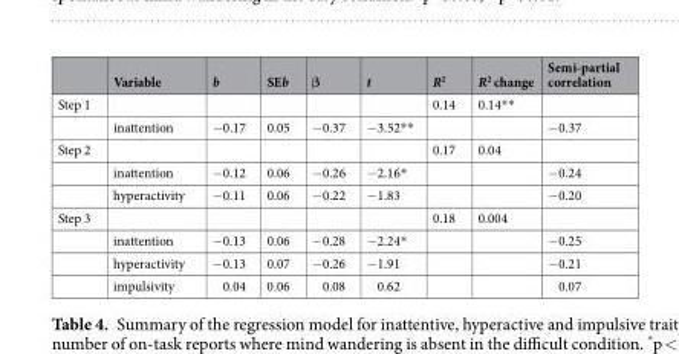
<table><thead><tr><td></td><td>Variable</td><td>b</td><td>SEb</td><td>β</td><td>t</td><td>R<sup>2</sup></td><td>R<sup>2</sup> change</td><td>Semi-partial correlation</td></tr></thead><tbody><tr><td rowspan="2">Step 1</td><td></td><td></td><td></td><td></td><td></td><td>0.14</td><td>0.14**</td><td></td></tr><tr><td>inattention</td><td>−0.17</td><td>0.05</td><td>−0.37</td><td>−3.52**</td><td></td><td></td><td>−0.37</td></tr><tr><td rowspan="3">Step 2</td><td></td><td></td><td></td><td></td><td></td><td>0.17</td><td>0.04</td><td></td></tr><tr><td>inattention</td><td>−0.12</td><td>0.06</td><td>−0.26</td><td>−2.16*</td><td></td><td></td><td>−0.24</td></tr><tr><td>hyperactivity</td><td>−0.11</td><td>0.06</td><td>−0.22</td><td>−1.83</td><td></td><td></td><td>−0.20</td></tr><tr><td rowspan="4">Step 3</td><td></td><td></td><td></td><td></td><td></td><td>0.18</td><td>0.004</td><td></td></tr><tr><td>inattention</td><td>−0.13</td><td>0.06</td><td>−0.28</td><td>−2.24*</td><td></td><td></td><td>−0.25</td></tr><tr><td>hyperactivity</td><td>−0.13</td><td>0.07</td><td>−0.26</td><td>−1.91</td><td></td><td></td><td>−0.21</td></tr><tr><td>impulsivity</td><td>0.04</td><td>0.06</td><td>0.08</td><td>0.62</td><td></td><td></td><td>0.07</td></tr></tbody></table>